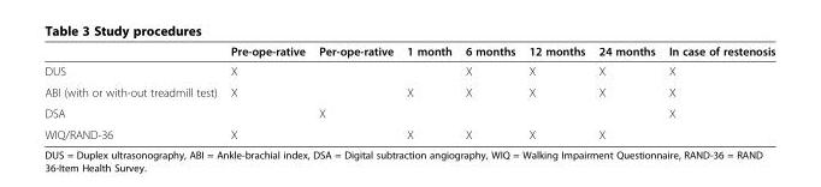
<table><thead><tr><td></td><td>Pre-ope-rative</td><td>Per-ope-rative</td><td>1 month</td><td>6 months</td><td>12 months</td><td>24 months</td><td>In case of restenosis</td></tr></thead><tbody><tr><td>DUS</td><td>X</td><td></td><td></td><td>X</td><td>X</td><td>X</td><td>X</td></tr><tr><td>ABI (with or with-out treadmill test)</td><td>X</td><td></td><td>X</td><td>X</td><td>X</td><td>X</td><td>X</td></tr><tr><td>DSA</td><td></td><td>X</td><td></td><td></td><td></td><td></td><td>X</td></tr><tr><td>WIQ/RAND-36</td><td>X</td><td></td><td>X</td><td>X</td><td>X</td><td>X</td><td></td></tr></tbody></table>